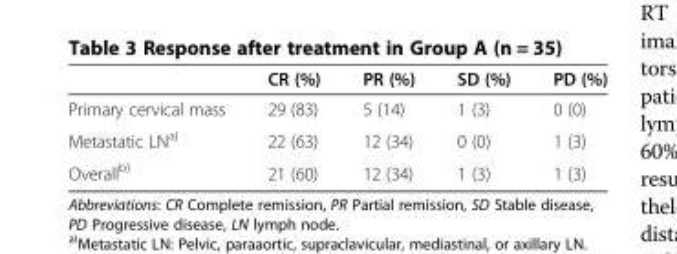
<table><thead><tr><td></td><td>CR (%)</td><td>PR (%)</td><td>SD (%)</td><td>PD (%)</td></tr></thead><tbody><tr><td>Primary cervical mass</td><td>29 (83)</td><td>5 (14)</td><td>1 (3)</td><td>0 (0)</td></tr><tr><td>Metastatic LN<sup>a)</sup></td><td>22 (63)</td><td>12 (34)</td><td>0 (0)</td><td>1 (3)</td></tr><tr><td>Overall<sup>b)</sup></td><td>21 (60)</td><td>12 (34)</td><td>1 (3)</td><td>1 (3)</td></tr></tbody></table>